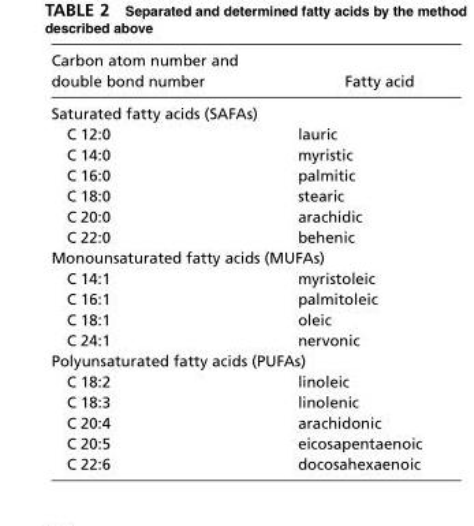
<table><thead><tr><td>Carbon atom number and double bond number</td><td>Fatty acid</td></tr></thead><tbody><tr><td colspan="2">Saturated fatty acids (SAFAs)</td></tr><tr><td>C 12:0</td><td>lauric</td></tr><tr><td>C 14:0</td><td>myristic</td></tr><tr><td>C 16:0</td><td>palmitic</td></tr><tr><td>C 18:0</td><td>stearic</td></tr><tr><td>C 20:0</td><td>arachidic</td></tr><tr><td>C 22:0</td><td>behenic</td></tr><tr><td colspan="2">Monounsaturated fatty acids (MUFAs)</td></tr><tr><td>C 14:1</td><td>myristoleic</td></tr><tr><td>C 16:1</td><td>palmitoleic</td></tr><tr><td>C 18:1</td><td>oleic</td></tr><tr><td>C 24:1</td><td>nervonic</td></tr><tr><td colspan="2">Polyunsaturated fatty acids (PUFAs)</td></tr><tr><td>C 18:2</td><td>linoleic</td></tr><tr><td>C 18:3</td><td>linolenic</td></tr><tr><td>C 20:4</td><td>arachidonic</td></tr><tr><td>C 20:5</td><td>eicosapentaenoic</td></tr><tr><td>C 22:6</td><td>docosahexaenoic</td></tr></tbody></table>